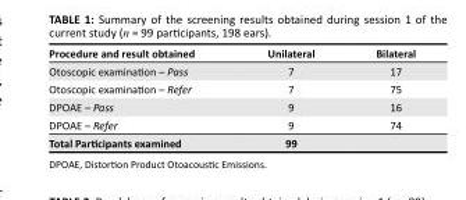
<table><thead><tr><td>Procedure and result obtained</td><td>Unilateral</td><td>Bilateral</td></tr></thead><tbody><tr><td>Otoscopic examination – Pass</td><td>7</td><td>17</td></tr><tr><td>Otoscopic examination – Refer</td><td>7</td><td>75</td></tr><tr><td>DPOAE – Pass</td><td>9</td><td>16</td></tr><tr><td>DPOAE – Refer</td><td>9</td><td>74</td></tr><tr><td>Total Participants examined</td><td>99</td><td></td></tr></tbody></table>